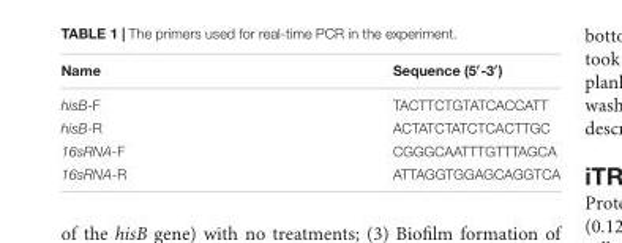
<table><thead><tr><td>Name</td><td>Sequence (5′-3′)</td></tr></thead><tbody><tr><td>hisB-F</td><td>TACTTCTGTATCACCATT</td></tr><tr><td>hisB-R</td><td>ACTATCTATCTCACTTGC</td></tr><tr><td>16sRNA-F</td><td>CGGGCAATTTGTTTAGCA</td></tr><tr><td>16sRNA-R</td><td>ATTAGGTGGAGCAGGTCA</td></tr></tbody></table>